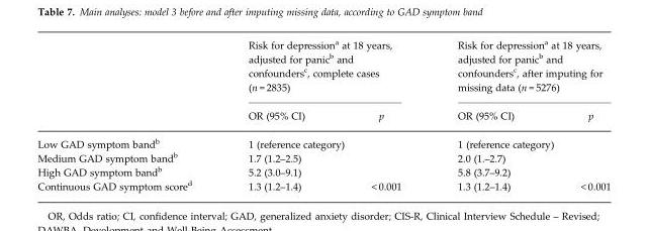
<table><thead><tr><td rowspan="2"></td><td colspan="2">Risk for depression<sup>a</sup> at 18 years, adjusted for panic<sup>b</sup> and confounders<sup>c</sup>, complete cases (n = 2835)</td><td colspan="2">Risk for depression<sup>a</sup> at 18 years, adjusted for panic<sup>b</sup> and confounders<sup>c</sup>, after imputing for missing data (n = 5276)</td></tr><tr><td>OR (95% CI)</td><td>p</td><td>OR (95% CI)</td><td>p</td></tr></thead><tbody><tr><td>Low GAD symptom band<sup>b</sup></td><td colspan="2">1 (reference category)</td><td colspan="2">1 (reference category)</td></tr><tr><td>Medium GAD symptom band<sup>b</sup></td><td colspan="2">1.7 (1.2–2.5)</td><td colspan="2">2.0 (1.–2.7)</td></tr><tr><td>High GAD symptom band<sup>b</sup></td><td colspan="2">5.2 (3.0–9.1)</td><td colspan="2">5.8 (3.7–9.2)</td></tr><tr><td>Continuous GAD symptom score<sup>d</sup></td><td>1.3 (1.2–1.4)</td><td>&lt; 0.001</td><td>1.3 (1.2–1.4)</td><td>&lt; 0.001</td></tr></tbody></table>